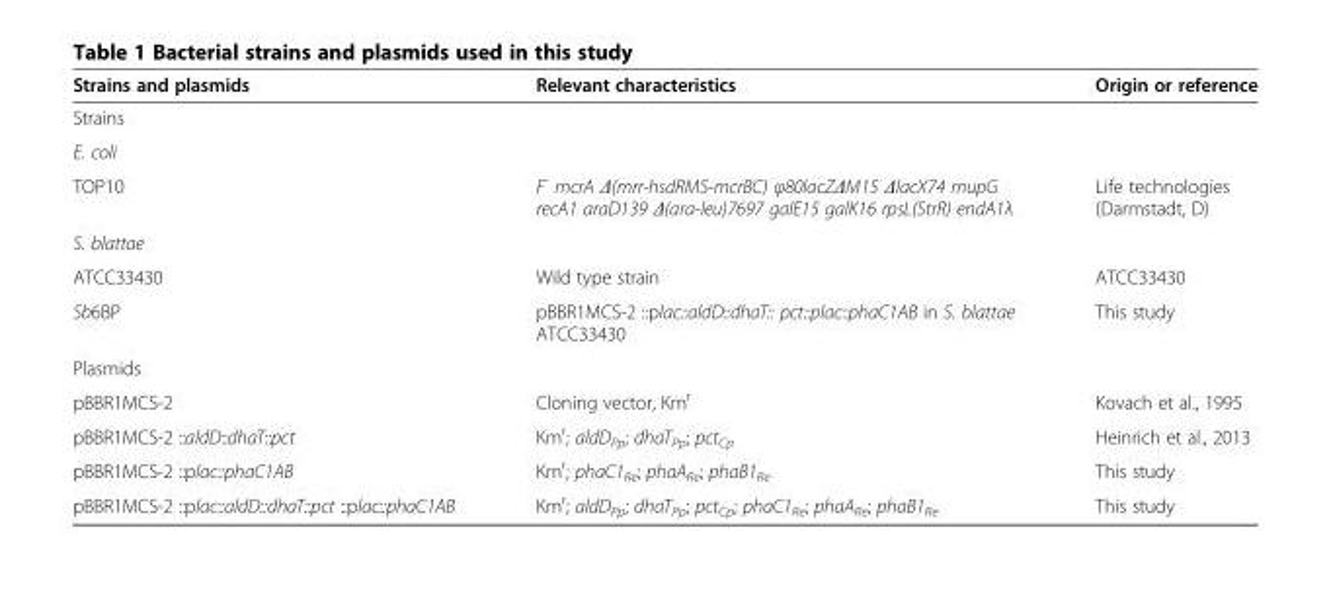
<table><thead><tr><td>Strains and plasmids</td><td>Relevant characteristics</td><td>Origin or reference</td></tr></thead><tbody><tr><td colspan="3">Strains</td></tr><tr><td colspan="3">E. coli</td></tr><tr><td>TOP10</td><td>F<sup>-</sup> mcrA Δ(mrr-hsdRMS-mcrBC) φ80lacZΔM15 ΔlacX74 mupG recA1 araD139 Δ(ara-leu)7697 galE15 galK16 rpsL(StrR) endA1λ</td><td>Life technologies (Darmstadt, D)</td></tr><tr><td colspan="3">S. blattae</td></tr><tr><td>ATCC33430</td><td>Wild type strain</td><td>ATCC33430</td></tr><tr><td>Sb6BP</td><td>pBBR1MCS-2 ::plac::aldD::dhaT:: pct::plac::phaC1AB in S. blattae ATCC33430</td><td>This study</td></tr><tr><td colspan="3">Plasmids</td></tr><tr><td>pBBR1MCS-2</td><td>Cloning vector, Km<sup>r</sup></td><td>Kovach et al., 1995</td></tr><tr><td>pBBR1MCS-2 ::aldD::dhaT::pct</td><td>Km<sup>r</sup>; aldD<sub>Pp</sub>; dhaT<sub>Pp</sub>; pct<sub>Cp</sub></td><td>Heinrich et al., 2013</td></tr><tr><td>pBBR1MCS-2 ::plac::phaC1AB</td><td>Km<sup>r</sup>; phaC1<sub>Re</sub>; phaA<sub>Re</sub>; phaB1<sub>Re</sub></td><td>This study</td></tr><tr><td>pBBR1MCS-2 ::plac::aldD::dhaT::pct ::plac::phaC1AB</td><td>Km<sup>r</sup>; aldD<sub>Pp</sub>; dhaT<sub>Pp</sub>; pct<sub>Cp</sub>; phaC1<sub>Re</sub>; phaA<sub>Re</sub>; phaB1<sub>Re</sub></td><td>This study</td></tr></tbody></table>